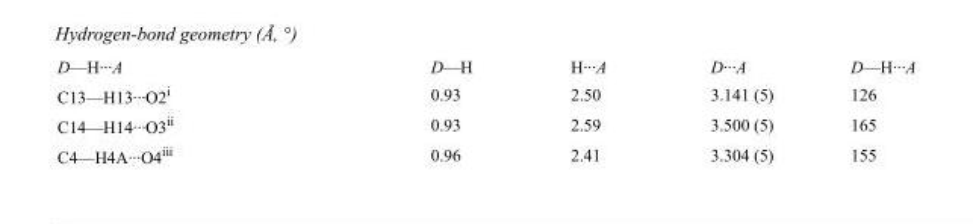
<table><tbody><tr><td>D—H···A</td><td>D—H</td><td>H···A</td><td>D···A</td><td>D—H···A</td></tr><tr><td>C13—H13···O2<sup>i</sup></td><td>0.93</td><td>2.50</td><td>3.141 (5)</td><td>126</td></tr><tr><td>C14—H14···O3<sup>ii</sup></td><td>0.93</td><td>2.59</td><td>3.500 (5)</td><td>165</td></tr><tr><td>C4—H4A···O4<sup>iii</sup></td><td>0.96</td><td>2.41</td><td>3.304 (5)</td><td>155</td></tr></tbody></table>